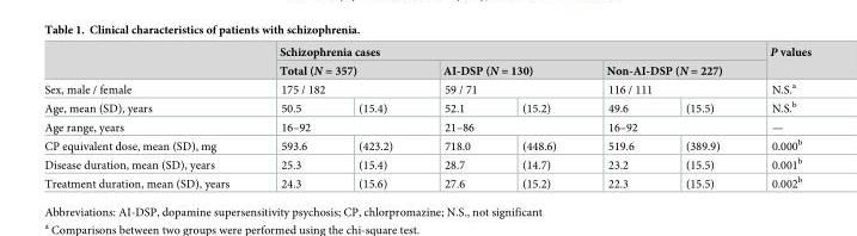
<table><thead><tr><td rowspan="4">Sex, male / female Age, mean (SD), years</td><td colspan="6">Schizophrenia cases</td><td rowspan="4">P values N.S.<sup>a</sup> N.S.<sup>b</sup></td></tr><tr><td rowspan="2" colspan="2">Total (N = 357) 175 / 182</td><td rowspan="2" colspan="2">AI-DSP (N = 130) 59 / 71</td><td rowspan="2" colspan="2">Non-AI-DSP (N = 227) 116 / 111</td></tr><tr></tr><tr><td>50.5</td><td>(15.4)</td><td>52.1</td><td>(15.2)</td><td>49.6</td><td>(15.5)</td></tr></thead><tbody><tr><td>Age range, years</td><td colspan="2">16–92</td><td colspan="2">21–86</td><td colspan="2">16–92</td><td>—</td></tr><tr><td>CP equivalent dose, mean (SD), mg</td><td>593.6</td><td>(423.2)</td><td>718.0</td><td>(448.6)</td><td>519.6</td><td>(389.9)</td><td>0.000<sup>b</sup></td></tr><tr><td>Disease duration, mean (SD), years</td><td>25.3</td><td>(15.4)</td><td>28.7</td><td>(14.7)</td><td>23.2</td><td>(15.5)</td><td>0.001<sup>b</sup></td></tr><tr><td>Treatment duration, mean (SD), years</td><td>24.3</td><td>(15.6)</td><td>27.6</td><td>(15.2)</td><td>22.3</td><td>(15.5)</td><td>0.002<sup>b</sup></td></tr></tbody></table>